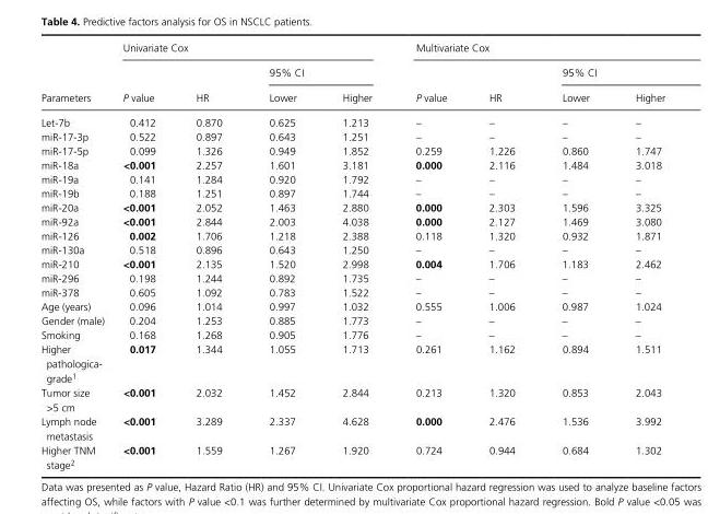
<table><thead><tr><td rowspan="3">Parameters</td><td colspan="4">Univariate Cox</td><td colspan="4">Multivariate Cox</td></tr><tr><td rowspan="2">P value</td><td rowspan="2">HR</td><td colspan="2">95% CI</td><td rowspan="2">P value</td><td rowspan="2">HR</td><td colspan="2">95% CI</td></tr><tr><td>Lower</td><td>Higher</td><td>Lower</td><td>Higher</td></tr></thead><tbody><tr><td>Let- 7b</td><td>0.412</td><td>0.870</td><td>0.625</td><td>1.213</td><td>–</td><td>–</td><td>–</td><td>–</td></tr><tr><td>miR- 17- 3p</td><td>0.522</td><td>0.897</td><td>0.643</td><td>1.251</td><td>–</td><td>–</td><td>–</td><td>–</td></tr><tr><td>miR- 17- 5p</td><td>0.099</td><td>1.326</td><td>0.949</td><td>1.852</td><td>0.259</td><td>1.226</td><td>0.860</td><td>1.747</td></tr><tr><td>miR- 18a</td><td>&lt;0.001</td><td>2.257</td><td>1.601</td><td>3.181</td><td>0.000</td><td>2.116</td><td>1.484</td><td>3.018</td></tr><tr><td>miR- 19a</td><td>0.141</td><td>1.284</td><td>0.920</td><td>1.792</td><td>–</td><td>–</td><td>–</td><td>–</td></tr><tr><td>miR- 19b</td><td>0.188</td><td>1.251</td><td>0.897</td><td>1.744</td><td>–</td><td>–</td><td>–</td><td>–</td></tr><tr><td>miR- 20a</td><td>&lt;0.001</td><td>2.052</td><td>1.463</td><td>2.880</td><td>0.000</td><td>2.303</td><td>1.596</td><td>3.325</td></tr><tr><td>miR- 92a</td><td>&lt;0.001</td><td>2.844</td><td>2.003</td><td>4.038</td><td>0.000</td><td>2.127</td><td>1.469</td><td>3.080</td></tr><tr><td>miR- 126</td><td>0.002</td><td>1.706</td><td>1.218</td><td>2.388</td><td>0.118</td><td>1.320</td><td>0.932</td><td>1.871</td></tr><tr><td>miR- 130a</td><td>0.518</td><td>0.896</td><td>0.643</td><td>1.250</td><td>–</td><td>–</td><td>–</td><td>–</td></tr><tr><td>miR- 210</td><td>&lt;0.001</td><td>2.135</td><td>1.520</td><td>2.998</td><td>0.004</td><td>1.706</td><td>1.183</td><td>2.462</td></tr><tr><td>miR- 296</td><td>0.198</td><td>1.244</td><td>0.892</td><td>1.735</td><td>–</td><td>–</td><td>–</td><td>–</td></tr><tr><td>miR- 378</td><td>0.605</td><td>1.092</td><td>0.783</td><td>1.522</td><td>–</td><td>–</td><td>–</td><td>–</td></tr><tr><td>Age (years)</td><td>0.096</td><td>1.014</td><td>0.997</td><td>1.032</td><td>0.555</td><td>1.006</td><td>0.987</td><td>1.024</td></tr><tr><td>Gender (male)</td><td>0.204</td><td>1.253</td><td>0.885</td><td>1.773</td><td>–</td><td>–</td><td>–</td><td>–</td></tr><tr><td>Smoking</td><td>0.168</td><td>1.268</td><td>0.905</td><td>1.776</td><td>–</td><td>–</td><td>–</td><td>–</td></tr><tr><td>Higher pathologica- grade1</td><td>0.017</td><td>1.344</td><td>1.055</td><td>1.713</td><td>0.261</td><td>1.162</td><td>0.894</td><td>1.511</td></tr><tr><td>Tumor size &gt;5 cm</td><td>&lt;0.001</td><td>2.032</td><td>1.452</td><td>2.844</td><td>0.213</td><td>1.320</td><td>0.853</td><td>2.043</td></tr><tr><td>Lymph node metastasis</td><td>&lt;0.001</td><td>3.289</td><td>2.337</td><td>4.628</td><td>0.000</td><td>2.476</td><td>1.536</td><td>3.992</td></tr><tr><td>Higher TNM stage2</td><td>&lt;0.001</td><td>1.559</td><td>1.267</td><td>1.920</td><td>0.724</td><td>0.944</td><td>0.684</td><td>1.302</td></tr></tbody></table>